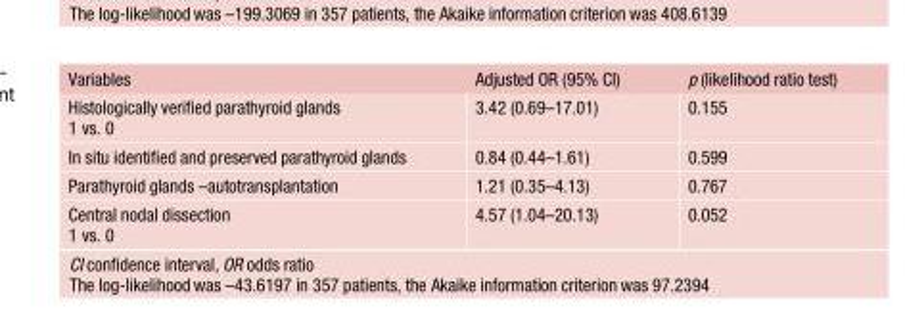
<table><thead><tr><td>Variables</td><td>Adjusted OR (95% CI)</td><td>p (likelihood ratio test)</td></tr></thead><tbody><tr><td>Histologically verified parathyroid glands 1 vs. 0</td><td>3.42 (0.69–17.01)</td><td>0.155</td></tr><tr><td>In situ identified and preserved parathyroid glands</td><td>0.84 (0.44–1.61)</td><td>0.599</td></tr><tr><td>Parathyroid glands –autotransplantation</td><td>1.21 (0.35–4.13)</td><td>0.767</td></tr><tr><td>Central nodal dissection 1 vs. 0</td><td>4.57 (1.04–20.13)</td><td>0.052</td></tr></tbody></table>